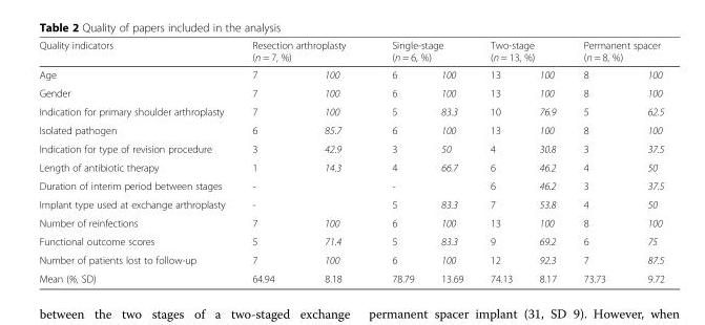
<table><thead><tr><td rowspan="2">Quality indicators Age</td><td colspan="2">Resection arthroplasty (n = 7, %)</td><td colspan="2">Single-stage (n = 6, %)</td><td colspan="2">Two-stage (n = 13, %)</td><td colspan="2">Permanent spacer (n = 8, %)</td></tr><tr><td>7</td><td>100</td><td>6</td><td>100</td><td>13</td><td>100</td><td>8</td><td>100</td></tr></thead><tbody><tr><td>Gender</td><td>7</td><td>100</td><td>6</td><td>100</td><td>13</td><td>100</td><td>8</td><td>100</td></tr><tr><td>Indication for primary shoulder arthroplasty</td><td>7</td><td>100</td><td>5</td><td>83.3</td><td>10</td><td>76.9</td><td>5</td><td>62.5</td></tr><tr><td>Isolated pathogen</td><td>6</td><td>85.7</td><td>6</td><td>100</td><td>13</td><td>100</td><td>8</td><td>100</td></tr><tr><td>Indication for type of revision procedure</td><td>3</td><td>42.9</td><td>3</td><td>50</td><td>4</td><td>30.8</td><td>3</td><td>37.5</td></tr><tr><td>Length of antibiotic therapy</td><td>1</td><td>14.3</td><td>4</td><td>66.7</td><td>6</td><td>46.2</td><td>4</td><td>50</td></tr><tr><td>Duration of interim period between stages</td><td>-</td><td></td><td>-</td><td></td><td>6</td><td>46.2</td><td>3</td><td>37.5</td></tr><tr><td>Implant type used at exchange arthroplasty</td><td>-</td><td></td><td>5</td><td>83.3</td><td>7</td><td>53.8</td><td>4</td><td>50</td></tr><tr><td>Number of reinfections</td><td>7</td><td>100</td><td>6</td><td>100</td><td>13</td><td>100</td><td>8</td><td>100</td></tr><tr><td>Functional outcome scores</td><td>5</td><td>71.4</td><td>5</td><td>83.3</td><td>9</td><td>69.2</td><td>6</td><td>75</td></tr><tr><td>Number of patients lost to follow-up</td><td>7</td><td>100</td><td>6</td><td>100</td><td>12</td><td>92.3</td><td>7</td><td>87.5</td></tr><tr><td>Mean (%, SD)</td><td>64.94</td><td>8.18</td><td>78.79</td><td>13.69</td><td>74.13</td><td>8.17</td><td>73.73</td><td>9.72</td></tr></tbody></table>